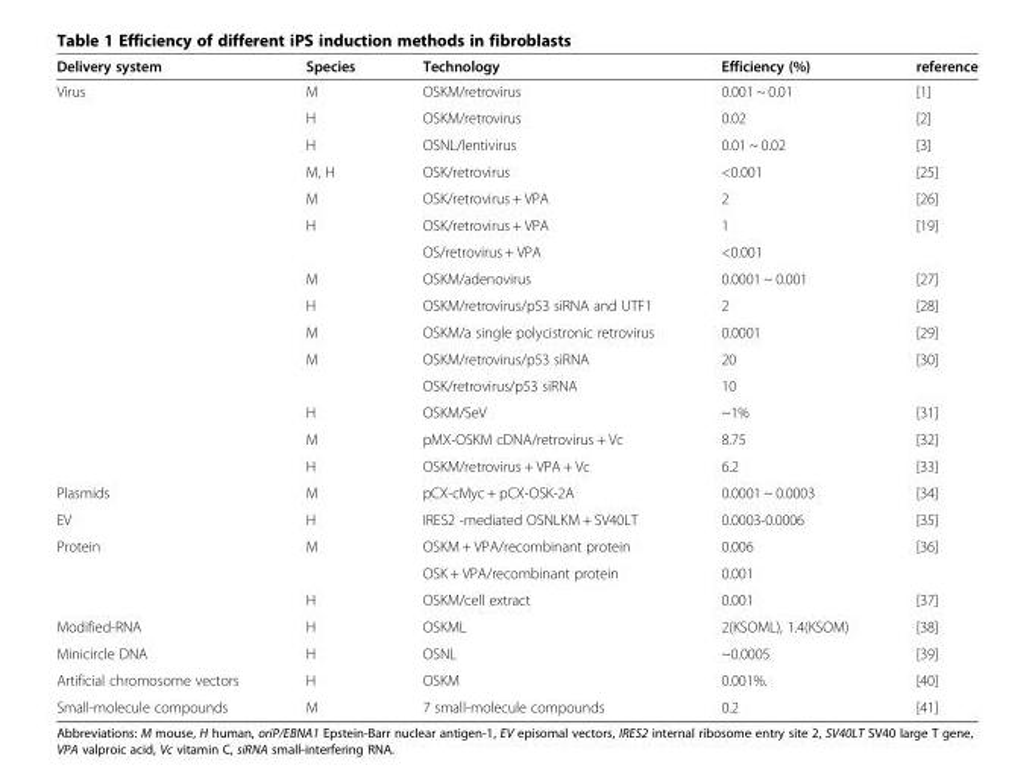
<table><thead><tr><td>Delivery system</td><td>Species</td><td>Technology</td><td>Efficiency (%)</td><td>reference</td></tr></thead><tbody><tr><td rowspan="15">Virus</td><td>M</td><td>OSKM/retrovirus</td><td>0.001 ~ 0.01</td><td>[1]</td></tr><tr><td>H</td><td>OSKM/retrovirus</td><td>0.02</td><td>[2]</td></tr><tr><td>H</td><td>OSNL/lentivirus</td><td>0.01 ~ 0.02</td><td>[3]</td></tr><tr><td>M, H</td><td>OSK/retrovirus</td><td>&lt;0.001</td><td>[25]</td></tr><tr><td>M</td><td>OSK/retrovirus + VPA</td><td>2</td><td>[26]</td></tr><tr><td rowspan="2">H</td><td>OSK/retrovirus + VPA</td><td>1</td><td>[19]</td></tr><tr><td>OS/retrovirus + VPA</td><td>&lt;0.001</td><td></td></tr><tr><td>M</td><td>OSKM/adenovirus</td><td>0.0001 ~ 0.001</td><td>[27]</td></tr><tr><td>H</td><td>OSKM/retrovirus/p53 siRNA and UTF1</td><td>2</td><td>[28]</td></tr><tr><td>M</td><td>OSKM/a single polycistronic retrovirus</td><td>0.0001</td><td>[29]</td></tr><tr><td rowspan="2">M</td><td>OSKM/retrovirus/p53 siRNA</td><td>20</td><td>[30]</td></tr><tr><td>OSK/retrovirus/p53 siRNA</td><td>10</td><td></td></tr><tr><td>H</td><td>OSKM/SeV</td><td>~1%</td><td>[31]</td></tr><tr><td>M</td><td>pMX-OSKM cDNA/retrovirus + Vc</td><td>8.75</td><td>[32]</td></tr><tr><td>H</td><td>OSKM/retrovirus + VPA + Vc</td><td>6.2</td><td>[33]</td></tr><tr><td>Plasmids</td><td>M</td><td>pCX-cMyc + pCX-OSK-2A</td><td>0.0001 ~ 0.0003</td><td>[34]</td></tr><tr><td>EV</td><td>H</td><td>IRES2 -mediated OSNLKM + SV40LT</td><td>0.0003-0.0006</td><td>[35]</td></tr><tr><td rowspan="3">Protein</td><td rowspan="2">M</td><td>OSKM + VPA/recombinant protein</td><td>0.006</td><td>[36]</td></tr><tr><td>OSK + VPA/recombinant protein</td><td>0.001</td><td></td></tr><tr><td>H</td><td>OSKM/cell extract</td><td>0.001</td><td>[37]</td></tr><tr><td>Modified-RNA</td><td>H</td><td>OSKML</td><td>2(KSOML), 1.4(KSOM)</td><td>[38]</td></tr><tr><td>Minicircle DNA</td><td>H</td><td>OSNL</td><td>~0.0005</td><td>[39]</td></tr><tr><td>Artificial chromosome vectors</td><td>H</td><td>OSKM</td><td>0.001%.</td><td>[40]</td></tr><tr><td>Small-molecule compounds</td><td>M</td><td>7 small-molecule compounds</td><td>0.2</td><td>[41]</td></tr></tbody></table>